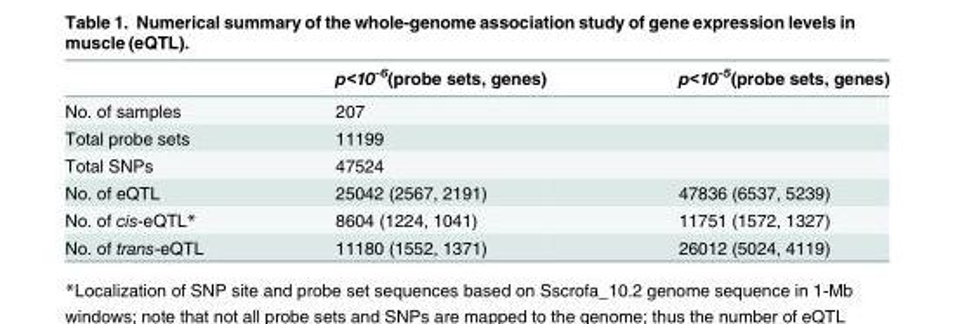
<table><thead><tr><td></td><td>p&lt;10<sup>-6</sup>(probe sets, genes)</td><td>p&lt;10<sup>-5</sup>(probe sets, genes)</td></tr></thead><tbody><tr><td>No. of samples</td><td colspan="2">207</td></tr><tr><td>Total probe sets</td><td colspan="2">11199</td></tr><tr><td>Total SNPs</td><td colspan="2">47524</td></tr><tr><td>No. of eQTL</td><td>25042 (2567, 2191)</td><td>47836 (6537, 5239)</td></tr><tr><td>No. of cis-eQTL*</td><td>8604 (1224, 1041)</td><td>11751 (1572, 1327)</td></tr><tr><td>No. of trans-eQTL</td><td>11180 (1552, 1371)</td><td>26012 (5024, 4119)</td></tr></tbody></table>